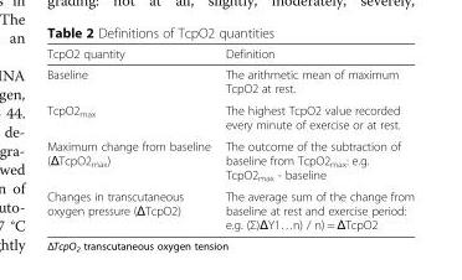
<table><thead><tr><td>TcpO2 quantity</td><td>Definition</td></tr></thead><tbody><tr><td>Baseline</td><td>The arithmetic mean of maximum TcpO2 at rest.</td></tr><tr><td>TcpO2<sub>max</sub></td><td>The highest TcpO2 value recorded every minute of exercise or at rest.</td></tr><tr><td>Maximum change from baseline (ΔTcpO2<sub>max</sub>)</td><td>The outcome of the subtraction of baseline from TcpO2<sub>max</sub>: e.g. TcpO2<sub>max</sub> - baseline</td></tr><tr><td>Changes in transcutaneous oxygen pressure (ΔTcpO2)</td><td>The average sum of the change from baseline at rest and exercise period: e.g. (Σ)ΔY1…n) / n) = ΔTcpO2</td></tr></tbody></table>